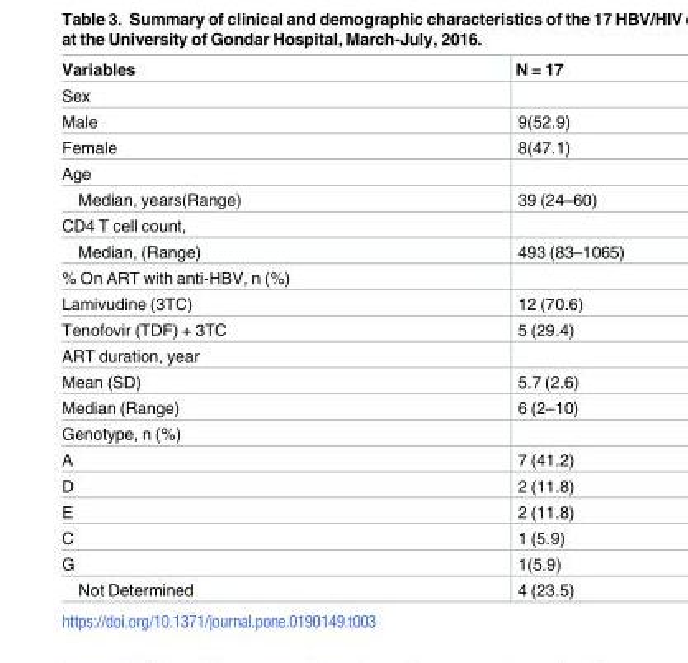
<table><thead><tr><td>Variables</td><td>N = 17</td></tr></thead><tbody><tr><td colspan="2">Sex</td></tr><tr><td>Male</td><td>9(52.9)</td></tr><tr><td>Female</td><td>8(47.1)</td></tr><tr><td colspan="2">Age</td></tr><tr><td>Median, years(Range)</td><td>39 (24–60)</td></tr><tr><td colspan="2">CD4 T cell count,</td></tr><tr><td>Median, (Range)</td><td>493 (83–1065)</td></tr><tr><td colspan="2">% On ART with anti-HBV, n (%)</td></tr><tr><td>Lamivudine (3TC)</td><td>12 (70.6)</td></tr><tr><td>Tenofovir (TDF) + 3TC</td><td>5 (29.4)</td></tr><tr><td colspan="2">ART duration, year</td></tr><tr><td>Mean (SD)</td><td>5.7 (2.6)</td></tr><tr><td>Median (Range)</td><td>6 (2–10)</td></tr><tr><td colspan="2">Genotype, n (%)</td></tr><tr><td>A</td><td>7 (41.2)</td></tr><tr><td>D</td><td>2 (11.8)</td></tr><tr><td>E</td><td>2 (11.8)</td></tr><tr><td>C</td><td>1 (5.9)</td></tr><tr><td>G</td><td>1(5.9)</td></tr><tr><td>Not Determined</td><td>4 (23.5)</td></tr></tbody></table>